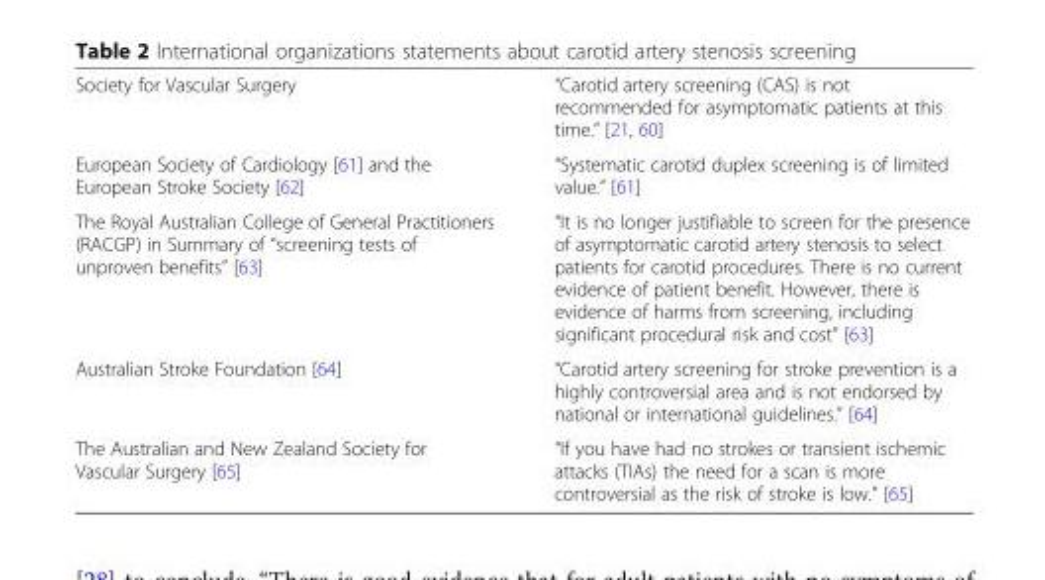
<table><tbody><tr><td>Society for Vascular Surgery</td><td>“Carotid artery screening (CAS) is not recommended for asymptomatic patients at this time.” [21, 60]</td></tr><tr><td>European Society of Cardiology [61] and the European Stroke Society [62]</td><td>“Systematic carotid duplex screening is of limited value.” [61]</td></tr><tr><td>The Royal Australian College of General Practitioners (RACGP) in Summary of “screening tests of unproven benefits” [63]</td><td>“It is no longer justifiable to screen for the presence of asymptomatic carotid artery stenosis to select patients for carotid procedures. There is no current evidence of patient benefit. However, there is evidence of harms from screening, including significant procedural risk and cost” [63]</td></tr><tr><td>Australian Stroke Foundation [64]</td><td>“Carotid artery screening for stroke prevention is a highly controversial area and is not endorsed by national or international guidelines.” [64]</td></tr><tr><td>The Australian and New Zealand Society for Vascular Surgery [65]</td><td>“If you have had no strokes or transient ischemic attacks (TIAs) the need for a scan is more controversial as the risk of stroke is low.” [65]</td></tr></tbody></table>